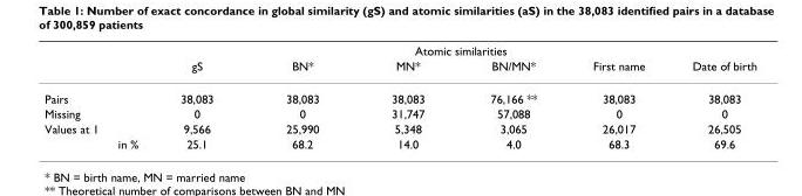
<table><thead><tr><td rowspan="2"></td><td colspan="6">Atomic similarities</td></tr><tr><td>gS</td><td>BN*</td><td>MN*</td><td>BN/MN*</td><td>First name</td><td>Date of birth</td></tr></thead><tbody><tr><td>Pairs</td><td>38,083</td><td>38,083</td><td>38,083</td><td>76,166 **</td><td>38,083</td><td>38,083</td></tr><tr><td>Missing</td><td>0</td><td>0</td><td>31,747</td><td>57,088</td><td>0</td><td>0</td></tr><tr><td>Values at 1</td><td>9,566</td><td>25,990</td><td>5,348</td><td>3,065</td><td>26,017</td><td>26,505</td></tr><tr><td>in %</td><td>25.1</td><td>68.2</td><td>14.0</td><td>4.0</td><td>68.3</td><td>69.6</td></tr></tbody></table>